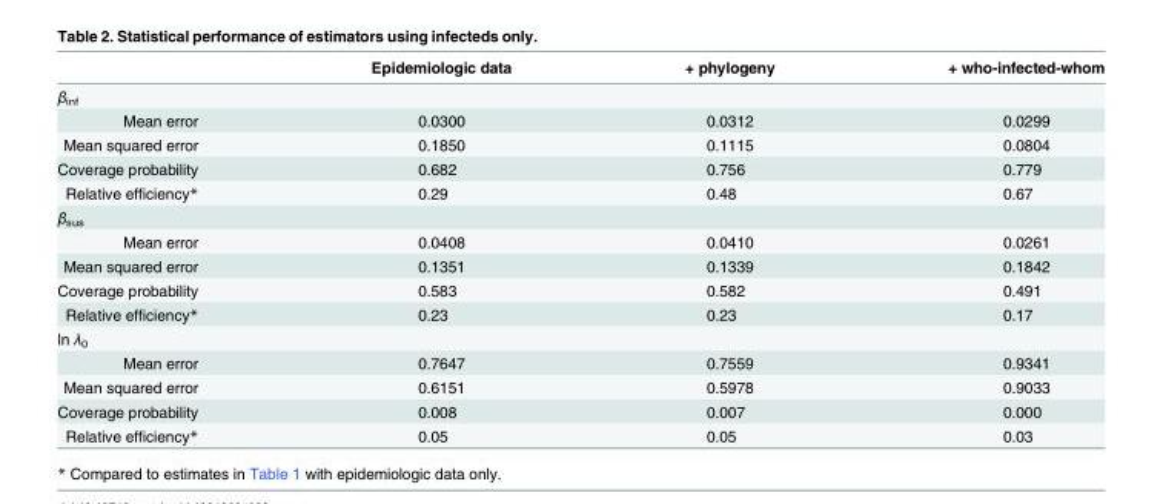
<table><thead><tr><td></td><td>Epidemiologic data</td><td>+ phylogeny</td><td>+ who-infected-whom</td></tr></thead><tbody><tr><td colspan="4">β<sub>inf</sub></td></tr><tr><td>Mean error</td><td>0.0300</td><td>0.0312</td><td>0.0299</td></tr><tr><td>Mean squared error</td><td>0.1850</td><td>0.1115</td><td>0.0804</td></tr><tr><td>Coverage probability</td><td>0.682</td><td>0.756</td><td>0.779</td></tr><tr><td>Relative efficiency*</td><td>0.29</td><td>0.48</td><td>0.67</td></tr><tr><td colspan="4">β<sub>sus</sub></td></tr><tr><td>Mean error</td><td>0.0408</td><td>0.0410</td><td>0.0261</td></tr><tr><td>Mean squared error</td><td>0.1351</td><td>0.1339</td><td>0.1842</td></tr><tr><td>Coverage probability</td><td>0.583</td><td>0.582</td><td>0.491</td></tr><tr><td>Relative efficiency*</td><td>0.23</td><td>0.23</td><td>0.17</td></tr><tr><td colspan="4">ln λ<sub>0</sub></td></tr><tr><td>Mean error</td><td>0.7647</td><td>0.7559</td><td>0.9341</td></tr><tr><td>Mean squared error</td><td>0.6151</td><td>0.5978</td><td>0.9033</td></tr><tr><td>Coverage probability</td><td>0.008</td><td>0.007</td><td>0.000</td></tr><tr><td>Relative efficiency*</td><td>0.05</td><td>0.05</td><td>0.03</td></tr></tbody></table>